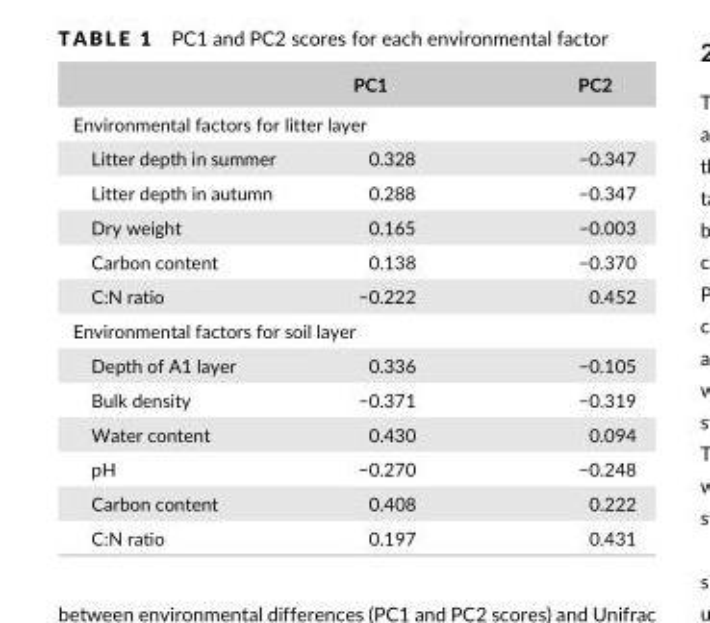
<table><thead><tr><td></td><td>PC1</td><td>PC2</td></tr></thead><tbody><tr><td colspan="3">Environmental factors for litter layer</td></tr><tr><td>Litter depth in summer</td><td>0.328</td><td>−0.347</td></tr><tr><td>Litter depth in autumn</td><td>0.288</td><td>−0.347</td></tr><tr><td>Dry weight</td><td>0.165</td><td>−0.003</td></tr><tr><td>Carbon content</td><td>0.138</td><td>−0.370</td></tr><tr><td>C:N ratio</td><td>−0.222</td><td>0.452</td></tr><tr><td colspan="3">Environmental factors for soil layer</td></tr><tr><td>Depth of A1 layer</td><td>0.336</td><td>−0.105</td></tr><tr><td>Bulk density</td><td>−0.371</td><td>−0.319</td></tr><tr><td>Water content</td><td>0.430</td><td>0.094</td></tr><tr><td>pH</td><td>−0.270</td><td>−0.248</td></tr><tr><td>Carbon content</td><td>0.408</td><td>0.222</td></tr><tr><td>C:N ratio</td><td>0.197</td><td>0.431</td></tr></tbody></table>